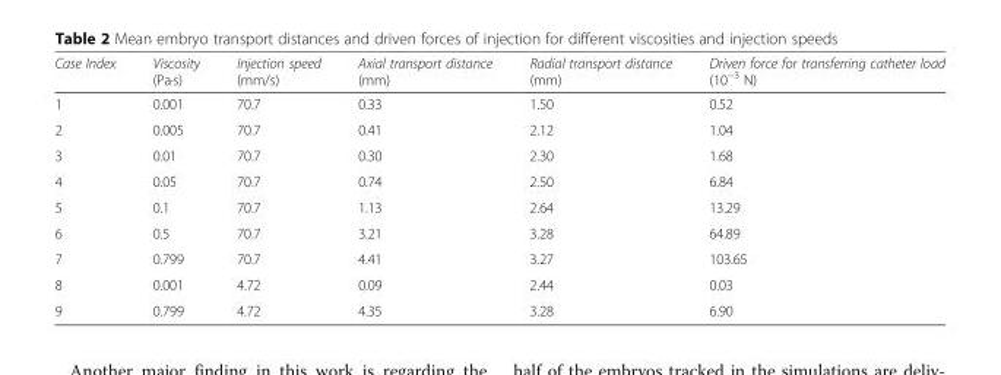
<table><thead><tr><td>Case Index</td><td>Viscosity (Pa·s)</td><td>Injection speed (mm/s)</td><td>Axial transport distance (mm)</td><td>Radial transport distance (mm)</td><td>Driven force for transferring catheter load (10<sup>−3</sup> N)</td></tr></thead><tbody><tr><td>1</td><td>0.001</td><td>70.7</td><td>0.33</td><td>1.50</td><td>0.52</td></tr><tr><td>2</td><td>0.005</td><td>70.7</td><td>0.41</td><td>2.12</td><td>1.04</td></tr><tr><td>3</td><td>0.01</td><td>70.7</td><td>0.30</td><td>2.30</td><td>1.68</td></tr><tr><td>4</td><td>0.05</td><td>70.7</td><td>0.74</td><td>2.50</td><td>6.84</td></tr><tr><td>5</td><td>0.1</td><td>70.7</td><td>1.13</td><td>2.64</td><td>13.29</td></tr><tr><td>6</td><td>0.5</td><td>70.7</td><td>3.21</td><td>3.28</td><td>64.89</td></tr><tr><td>7</td><td>0.799</td><td>70.7</td><td>4.41</td><td>3.27</td><td>103.65</td></tr><tr><td>8</td><td>0.001</td><td>4.72</td><td>0.09</td><td>2.44</td><td>0.03</td></tr><tr><td>9</td><td>0.799</td><td>4.72</td><td>4.35</td><td>3.28</td><td>6.90</td></tr></tbody></table>